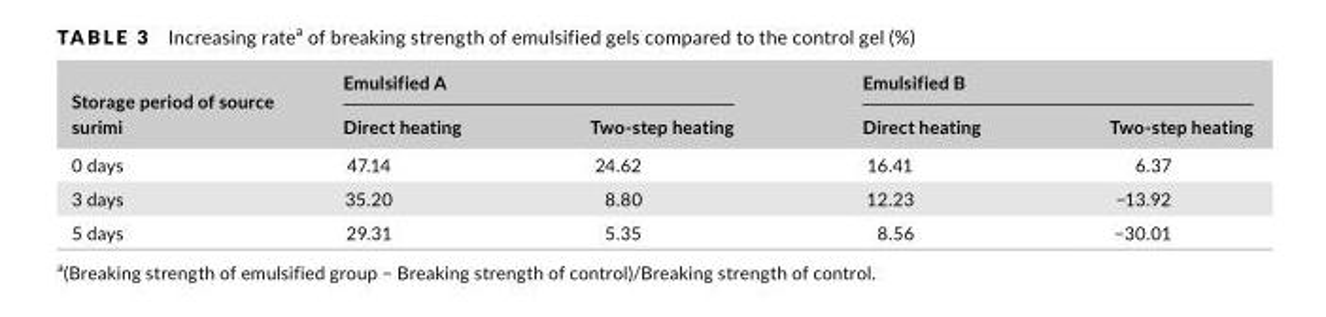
<table><thead><tr><td rowspan="2">Storage period of source surimi</td><td colspan="2">Emulsified A</td><td colspan="2">Emulsified B</td></tr><tr><td>Direct heating</td><td>Two- step heating</td><td>Direct heating</td><td>Two- step heating</td></tr></thead><tbody><tr><td>0 days</td><td>47.14</td><td>24.62</td><td>16.41</td><td>6.37</td></tr><tr><td>3 days</td><td>35.20</td><td>8.80</td><td>12.23</td><td>−13.92</td></tr><tr><td>5 days</td><td>29.31</td><td>5.35</td><td>8.56</td><td>−30.01</td></tr></tbody></table>